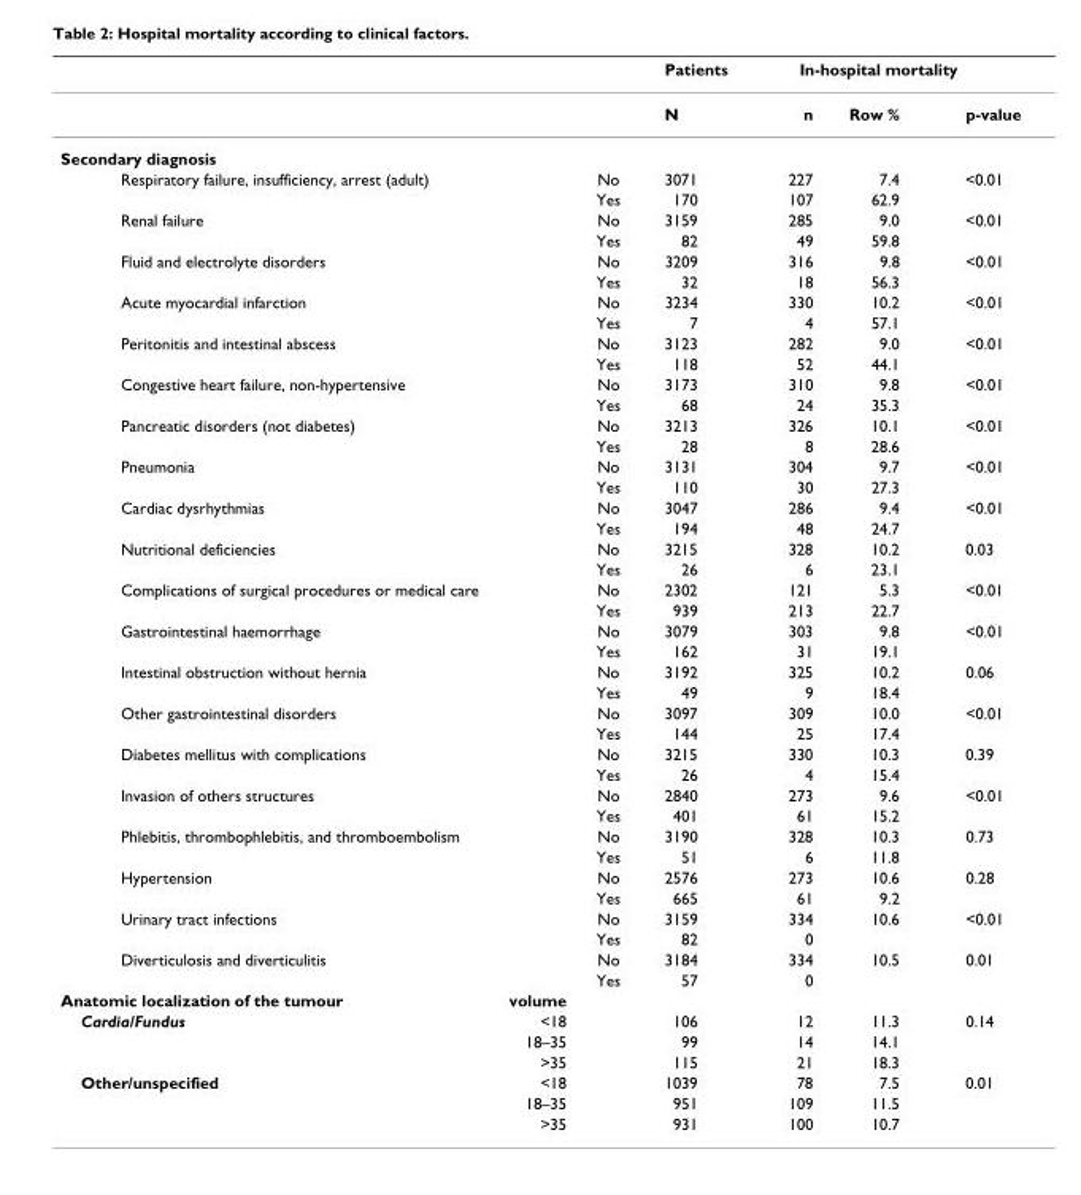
<table><thead><tr><td rowspan="2"></td><td rowspan="2"></td><td rowspan="2"></td><td rowspan="2">Patients N</td><td colspan="3">In-hospital mortality</td></tr><tr><td>n</td><td>Row %</td><td>p-value</td></tr></thead><tbody><tr><td colspan="7">Secondary diagnosis</td></tr><tr><td rowspan="2">Respiratory failure, insufficiency, arrest (adult)</td><td></td><td>No</td><td>3071</td><td>227</td><td>7.4</td><td>&lt;0.01</td></tr><tr><td></td><td>Yes</td><td>170</td><td>107</td><td>62.9</td><td></td></tr><tr><td rowspan="2">Renal failure</td><td></td><td>No</td><td>3159</td><td>285</td><td>9.0</td><td>&lt;0.01</td></tr><tr><td></td><td>Yes</td><td>82</td><td>49</td><td>59.8</td><td></td></tr><tr><td rowspan="2">Fluid and electrolyte disorders</td><td></td><td>No</td><td>3209</td><td>316</td><td>9.8</td><td>&lt;0.01</td></tr><tr><td></td><td>Yes</td><td>32</td><td>18</td><td>56.3</td><td></td></tr><tr><td rowspan="2">Acute myocardial infarction</td><td></td><td>No</td><td>3234</td><td>330</td><td>10.2</td><td>&lt;0.01</td></tr><tr><td></td><td>Yes</td><td>7</td><td>4</td><td>57.1</td><td></td></tr><tr><td rowspan="2">Peritonitis and intestinal abscess</td><td></td><td>No</td><td>3123</td><td>282</td><td>9.0</td><td>&lt;0.01</td></tr><tr><td></td><td>Yes</td><td>118</td><td>52</td><td>44.1</td><td></td></tr><tr><td rowspan="2">Congestive heart failure, non-hypertensive</td><td></td><td>No</td><td>3173</td><td>310</td><td>9.8</td><td>&lt;0.01</td></tr><tr><td></td><td>Yes</td><td>68</td><td>24</td><td>35.3</td><td></td></tr><tr><td rowspan="2">Pancreatic disorders (not diabetes)</td><td></td><td>No</td><td>3213</td><td>326</td><td>10.1</td><td>&lt;0.01</td></tr><tr><td></td><td>Yes</td><td>28</td><td>8</td><td>28.6</td><td></td></tr><tr><td rowspan="2">Pneumonia</td><td></td><td>No</td><td>3131</td><td>304</td><td>9.7</td><td>&lt;0.01</td></tr><tr><td></td><td>Yes</td><td>110</td><td>30</td><td>27.3</td><td></td></tr><tr><td rowspan="2">Cardiac dysrhythmias</td><td></td><td>No</td><td>3047</td><td>286</td><td>9.4</td><td>&lt;0.01</td></tr><tr><td></td><td>Yes</td><td>194</td><td>48</td><td>24.7</td><td></td></tr><tr><td rowspan="2">Nutritional deficiencies</td><td></td><td>No</td><td>3215</td><td>328</td><td>10.2</td><td>0.03</td></tr><tr><td></td><td>Yes</td><td>26</td><td>6</td><td>23.1</td><td></td></tr><tr><td rowspan="2">Complications of surgical procedures or medical care</td><td></td><td>No</td><td>2302</td><td>121</td><td>5.3</td><td>&lt;0.01</td></tr><tr><td></td><td>Yes</td><td>939</td><td>213</td><td>22.7</td><td></td></tr><tr><td rowspan="2">Gastrointestinal haemorrhage</td><td></td><td>No</td><td>3079</td><td>303</td><td>9.8</td><td>&lt;0.01</td></tr><tr><td></td><td>Yes</td><td>162</td><td>31</td><td>19.1</td><td></td></tr><tr><td rowspan="2">Intestinal obstruction without hernia</td><td></td><td>No</td><td>3192</td><td>325</td><td>10.2</td><td>0.06</td></tr><tr><td></td><td>Yes</td><td>49</td><td>9</td><td>18.4</td><td></td></tr><tr><td rowspan="2">Other gastrointestinal disorders</td><td></td><td>No</td><td>3097</td><td>309</td><td>10.0</td><td>&lt;0.01</td></tr><tr><td></td><td>Yes</td><td>144</td><td>25</td><td>17.4</td><td></td></tr><tr><td rowspan="2">Diabetes mellitus with complications</td><td></td><td>No</td><td>3215</td><td>330</td><td>10.3</td><td>0.39</td></tr><tr><td></td><td>Yes</td><td>26</td><td>4</td><td>15.4</td><td></td></tr><tr><td rowspan="2">Invasion of others structures</td><td></td><td>No</td><td>2840</td><td>273</td><td>9.6</td><td>&lt;0.01</td></tr><tr><td></td><td>Yes</td><td>401</td><td>61</td><td>15.2</td><td></td></tr><tr><td rowspan="2">Phlebitis, thrombophlebitis, and thromboembolism</td><td></td><td>No</td><td>3190</td><td>328</td><td>10.3</td><td>0.73</td></tr><tr><td></td><td>Yes</td><td>51</td><td>6</td><td>11.8</td><td></td></tr><tr><td rowspan="2">Hypertension</td><td></td><td>No</td><td>2576</td><td>273</td><td>10.6</td><td>0.28</td></tr><tr><td></td><td>Yes</td><td>665</td><td>61</td><td>9.2</td><td></td></tr><tr><td rowspan="2">Urinary tract infections</td><td></td><td>No</td><td>3159</td><td>334</td><td>10.6</td><td>&lt;0.01</td></tr><tr><td></td><td>Yes</td><td>82</td><td>0</td><td></td><td></td></tr><tr><td rowspan="2">Diverticulosis and diverticulitis</td><td></td><td>No</td><td>3184</td><td>334</td><td>10.5</td><td>0.01</td></tr><tr><td></td><td>Yes</td><td>57</td><td>0</td><td></td><td></td></tr><tr><td>Anatomic localization of the tumour</td><td>volume</td><td></td><td></td><td></td><td></td><td></td></tr><tr><td rowspan="3">Cardia/Fundus</td><td>&lt;18</td><td></td><td>106</td><td>12</td><td>11.3</td><td>0.14</td></tr><tr><td>18–35</td><td></td><td>99</td><td>14</td><td>14.1</td><td></td></tr><tr><td>&gt;35</td><td></td><td>115</td><td>21</td><td>18.3</td><td></td></tr><tr><td rowspan="3">Other/unspecified</td><td>&lt;18</td><td></td><td>1039</td><td>78</td><td>7.5</td><td>0.01</td></tr><tr><td>18–35</td><td></td><td>951</td><td>109</td><td>11.5</td><td></td></tr><tr><td>&gt;35</td><td></td><td>931</td><td>100</td><td>10.7</td><td></td></tr></tbody></table>